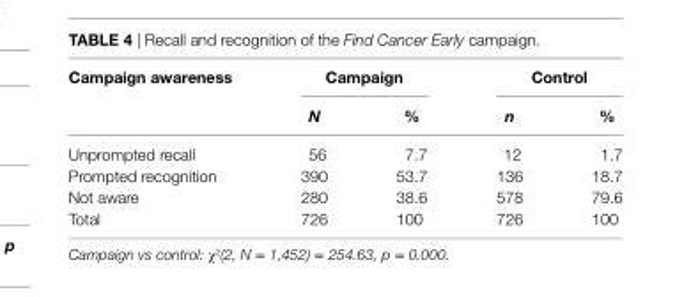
<table><thead><tr><td rowspan="2">Campaign awareness</td><td colspan="2">Campaign</td><td colspan="2">Control</td></tr><tr><td>N</td><td>%</td><td>n</td><td>%</td></tr></thead><tbody><tr><td>Unprompted recall</td><td>56</td><td>7.7</td><td>12</td><td>1.7</td></tr><tr><td>Prompted recognition</td><td>390</td><td>53.7</td><td>136</td><td>18.7</td></tr><tr><td>Not aware</td><td>280</td><td>38.6</td><td>578</td><td>79.6</td></tr><tr><td>Total</td><td>726</td><td>100</td><td>726</td><td>100</td></tr></tbody></table>